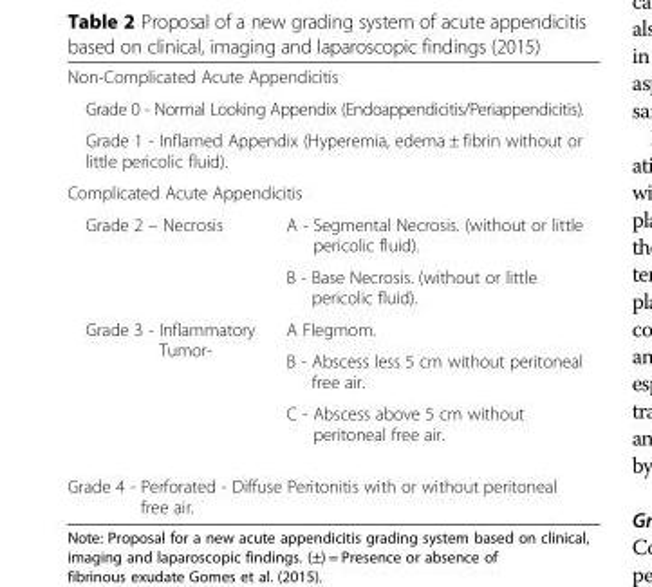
<table><tbody><tr><td colspan="2">Non-Complicated Acute Appendicitis</td></tr><tr><td colspan="2">Grade 0 - Normal Looking Appendix (Endoappendicitis/Periappendicitis).</td></tr><tr><td colspan="2">Grade 1 - Inflamed Appendix (Hyperemia, edema ± fibrin without or little pericolic fluid).</td></tr><tr><td colspan="2">Complicated Acute Appendicitis</td></tr><tr><td rowspan="2">Grade 2 – Necrosis</td><td>A - Segmental Necrosis. (without or little pericolic fluid).</td></tr><tr><td>B - Base Necrosis. (without or little pericolic fluid).</td></tr><tr><td rowspan="3">Grade 3 - Inflammatory Tumor-</td><td>A Flegmom.</td></tr><tr><td>B - Abscess less 5 cm without peritoneal free air.</td></tr><tr><td>C - Abscess above 5 cm without peritoneal free air.</td></tr><tr><td colspan="2">Grade 4 - Perforated - Diffuse Peritonitis with or without peritoneal free air.</td></tr></tbody></table>